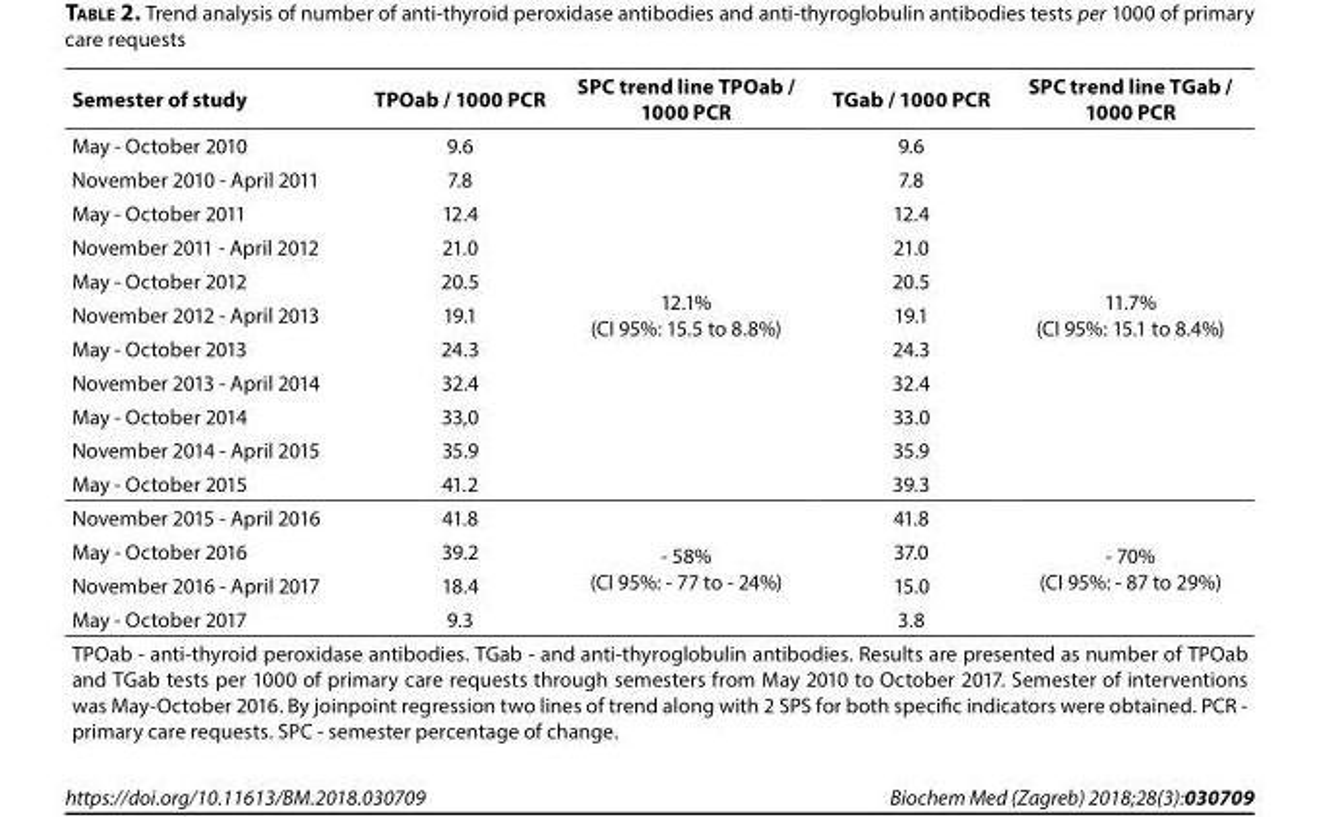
<table><thead><tr><td>Semester of study</td><td>TPOab / 1000 PCR</td><td>SPC trend line TPOab / 1000 PCR</td><td>TGab / 1000 PCR</td><td>SPC trend line TGab / 1000 PCR</td></tr></thead><tbody><tr><td>May - October 2010</td><td>9.6</td><td rowspan="11">12.1% (CI 95%: 15.5 to 8.8%)</td><td>9.6</td><td rowspan="11">11.7% (CI 95%: 15.1 to 8.4%)</td></tr><tr><td>November 2010 - April 2011</td><td>7.8</td><td>7.8</td></tr><tr><td>May - October 2011</td><td>12.4</td><td>12.4</td></tr><tr><td>November 2011 - April 2012</td><td>21.0</td><td>21.0</td></tr><tr><td>May - October 2012</td><td>20.5</td><td>20.5</td></tr><tr><td>November 2012 - April 2013</td><td>19.1</td><td>19.1</td></tr><tr><td>May - October 2013</td><td>24.3</td><td>24.3</td></tr><tr><td>November 2013 - April 2014</td><td>32.4</td><td>32.4</td></tr><tr><td>May - October 2014</td><td>33,0</td><td>33.0</td></tr><tr><td>November 2014 - April 2015</td><td>35.9</td><td>35.9</td></tr><tr><td>May - October 2015</td><td>41.2</td><td>39.3</td></tr><tr><td>November 2015 - April 2016</td><td>41.8</td><td rowspan="4">- 58% (CI 95%: - 77 to - 24%)</td><td>41.8</td><td rowspan="4">- 70% (CI 95%: - 87 to 29%)</td></tr><tr><td>May - October 2016</td><td>39.2</td><td>37.0</td></tr><tr><td>November 2016 - April 2017</td><td>18.4</td><td>15.0</td></tr><tr><td>May - October 2017</td><td>9.3</td><td>3.8</td></tr><tr><td colspan="5">TPOab - anti-thyroid peroxidase antibodies. TGab - and anti-thyroglobulin antibodies. Results are presented as number of TPOab and TGab tests per 1000 of primary care requests through semesters from May 2010 to October 2017. Semester of interventions was May-October 2016. By joinpoint regression two lines of trend along with 2 SPS for both specific indicators were obtained. PCR - primary care requests. SPC - semester percentage of change.</td></tr></tbody></table>